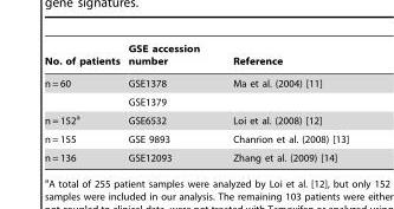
<table><thead><tr><td>No. of patients</td><td>GSE accession number</td><td>Reference</td></tr></thead><tbody><tr><td rowspan="2">n = 60</td><td>GSE1378</td><td>Ma et al. (2004) [11]</td></tr><tr><td>GSE1379</td><td></td></tr><tr><td>n = 152<sup>a</sup></td><td>GSE6532</td><td>Loi et al. (2008) [12]</td></tr><tr><td>n = 155</td><td>GSE 9893</td><td>Chanrion et al. (2008) [13]</td></tr><tr><td>n = 136</td><td>GSE12093</td><td>Zhang et al. (2009) [14]</td></tr></tbody></table>